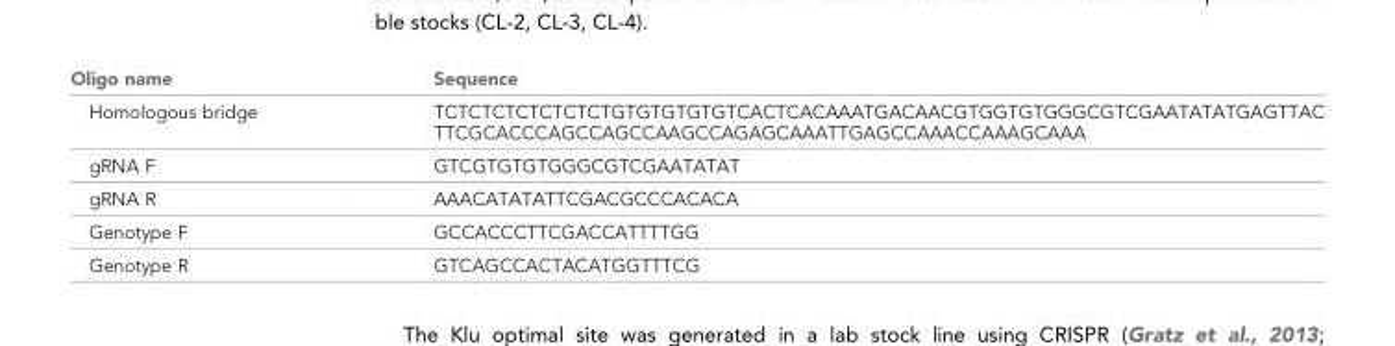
<table><thead><tr><td>Oligo name</td><td>Sequence</td></tr></thead><tbody><tr><td>Homologous bridge</td><td>TCTCTCTCTCTCTCTGTGTGTGTGTCACTCACAAATGACAACGTGGTGTGGGCGTCGAATATATGAGTTAC TTCGCACCCAGCCAGCCAAGCCAGAGCAAATTGAGCCAAACCAAAGCAAA</td></tr><tr><td>gRNA F</td><td>GTCGTGTGTGGGCGTCGAATATAT</td></tr><tr><td>gRNA R</td><td>AAACATATATTCGACGCCCACACA</td></tr><tr><td>Genotype F</td><td>GCCACCCTTCGACCATTTTGG</td></tr><tr><td>Genotype R</td><td>GTCAGCCACTACATGGTTTCG</td></tr></tbody></table>